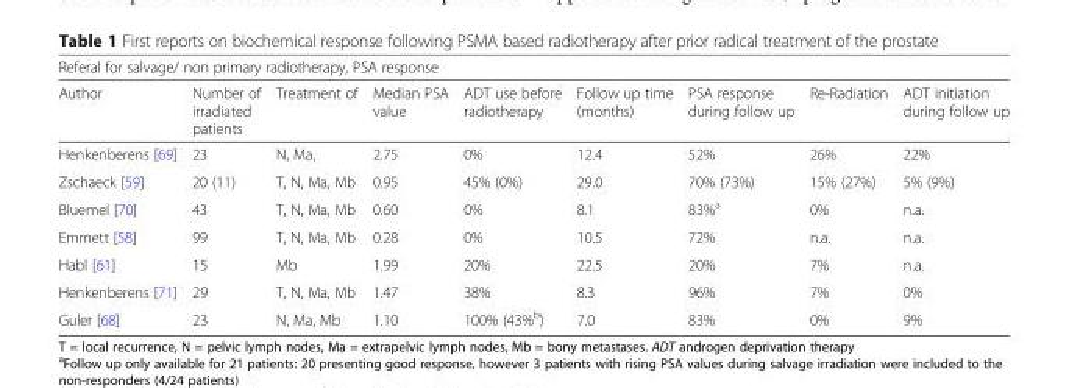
<table><thead><tr><td colspan="9">Referal for salvage/ non primary radiotherapy, PSA response</td></tr><tr><td>Author</td><td>Number of irradiated patients</td><td>Treatment of</td><td>Median PSA value</td><td>ADT use before radiotherapy</td><td>Follow up time (months)</td><td>PSA response during follow up</td><td>Re-Radiation</td><td>ADT initiation during follow up</td></tr></thead><tbody><tr><td>Henkenberens [69]</td><td>23</td><td>N, Ma,</td><td>2.75</td><td>0%</td><td>12.4</td><td>52%</td><td>26%</td><td>22%</td></tr><tr><td>Zschaeck [59]</td><td>20 (11)</td><td>T, N, Ma, Mb</td><td>0.95</td><td>45% (0%)</td><td>29.0</td><td>70% (73%)</td><td>15% (27%)</td><td>5% (9%)</td></tr><tr><td>Bluemel [70]</td><td>43</td><td>T, N, Ma, Mb</td><td>0.60</td><td>0%</td><td>8.1</td><td>83%<sup>a</sup></td><td>0%</td><td>n.a.</td></tr><tr><td>Emmett [58]</td><td>99</td><td>T, N, Ma, Mb</td><td>0.28</td><td>0%</td><td>10.5</td><td>72%</td><td>n.a.</td><td>n.a.</td></tr><tr><td>Habl [61]</td><td>15</td><td>Mb</td><td>1.99</td><td>20%</td><td>22.5</td><td>20%</td><td>7%</td><td>n.a.</td></tr><tr><td>Henkenberens [71]</td><td>29</td><td>T, N, Ma, Mb</td><td>1.47</td><td>38%</td><td>8.3</td><td>96%</td><td>7%</td><td>0%</td></tr><tr><td>Guler [68]</td><td>23</td><td>N, Ma, Mb</td><td>1.10</td><td>100% (43%<sup>b</sup>)</td><td>7.0</td><td>83%</td><td>0%</td><td>9%</td></tr></tbody></table>